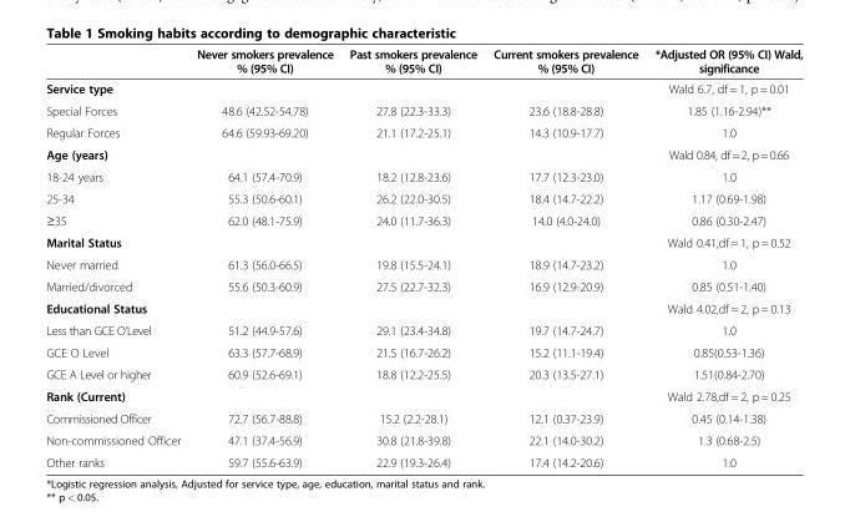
<table><thead><tr><td></td><td>Never smokers prevalence % (95% CI)</td><td>Past smokers prevalence % (95% CI)</td><td>Current smokers prevalence % (95% CI)</td><td>*Adjusted OR (95% CI) Wald, significance</td></tr></thead><tbody><tr><td>Service type</td><td></td><td></td><td></td><td>Wald 6.7, df = 1, p = 0.01</td></tr><tr><td>Special Forces</td><td>48.6 (42.52-54.78)</td><td>27.8 (22.3-33.3)</td><td>23.6 (18.8-28.8)</td><td>1.85 (1.16-2.94)**</td></tr><tr><td>Regular Forces</td><td>64.6 (59.93-69.20)</td><td>21.1 (17.2-25.1)</td><td>14.3 (10.9-17.7)</td><td>1.0</td></tr><tr><td>Age (years)</td><td></td><td></td><td></td><td>Wald 0.84, df=2, p=0.66</td></tr><tr><td>18-24 years</td><td>64.1 (57.4-70.9)</td><td>18.2 (12.8-23.6)</td><td>17.7 (12.3-23.0)</td><td>1.0</td></tr><tr><td>25-34</td><td>55.3 (50.6-60.1)</td><td>26.2 (22.0-30.5)</td><td>18.4 (14.7-22.2)</td><td>1.17 (0.69-1.98)</td></tr><tr><td>≥35</td><td>62.0 (48.1-75.9)</td><td>24.0 (11.7-36.3)</td><td>14.0 (4.0-24.0)</td><td>0.86 (0.30-2.47)</td></tr><tr><td>Marital Status</td><td></td><td></td><td></td><td>Wald 0.41,df = 1, p = 0.52</td></tr><tr><td>Never married</td><td>61.3 (56.0-66.5)</td><td>19.8 (15.5-24.1)</td><td>18.9 (14.7-23.2)</td><td>1.0</td></tr><tr><td>Married/divorced</td><td>55.6 (50.3-60.9)</td><td>27.5 (22.7-32.3)</td><td>16.9 (12.9-20.9)</td><td>0.85 (0.51-1.40)</td></tr><tr><td>Educational Status</td><td></td><td></td><td></td><td>Wald 4.02,df = 2, p = 0.13</td></tr><tr><td>Less than GCE O’Level</td><td>51.2 (44.9-57.6)</td><td>29.1 (23.4-34.8)</td><td>19.7 (14.7-24.7)</td><td>1.0</td></tr><tr><td>GCE O Level</td><td>63.3 (57.7-68.9)</td><td>21.5 (16.7-26.2)</td><td>15.2 (11.1-19.4)</td><td>0.85(0.53-1.36)</td></tr><tr><td>GCE A Level or higher</td><td>60.9 (52.6-69.1)</td><td>18.8 (12.2-25.5)</td><td>20.3 (13.5-27.1)</td><td>1.51(0.84-2.70)</td></tr><tr><td>Rank (Current)</td><td></td><td></td><td></td><td>Wald 2.78,df = 2, p = 0.25</td></tr><tr><td>Commissioned Officer</td><td>72.7 (56.7-88.8)</td><td>15.2 (2.2-28.1)</td><td>12.1 (0.37-23.9)</td><td>0.45 (0.14-1.38)</td></tr><tr><td>Non-commissioned Officer</td><td>47.1 (37.4-56.9)</td><td>30.8 (21.8-39.8)</td><td>22.1 (14.0-30.2)</td><td>1.3 (0.68-2.5)</td></tr><tr><td>Other ranks</td><td>59.7 (55.6-63.9)</td><td>22.9 (19.3-26.4)</td><td>17.4 (14.2-20.6)</td><td>1.0</td></tr></tbody></table>